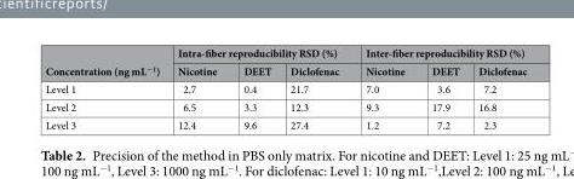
<table><thead><tr><td rowspan="2">Concentration (ng mL<sup>−1</sup>)</td><td colspan="3">Intra-fiber reproducibility RSD (%)</td><td colspan="3">Inter-fiber reproducibility RSD (%)</td></tr><tr><td>Nicotine</td><td>DEET</td><td>Diclofenac</td><td>Nicotine</td><td>DEET</td><td>Diclofenac</td></tr></thead><tbody><tr><td>Level 1</td><td>2.7</td><td>0.4</td><td>21.7</td><td>7.0</td><td>3.6</td><td>7.2</td></tr><tr><td>Level 2</td><td>6.5</td><td>3.3</td><td>12.3</td><td>9.3</td><td>17.9</td><td>16.8</td></tr><tr><td>Level 3</td><td>12.4</td><td>9.6</td><td>27.4</td><td>1.2</td><td>7.2</td><td>2.3</td></tr></tbody></table>